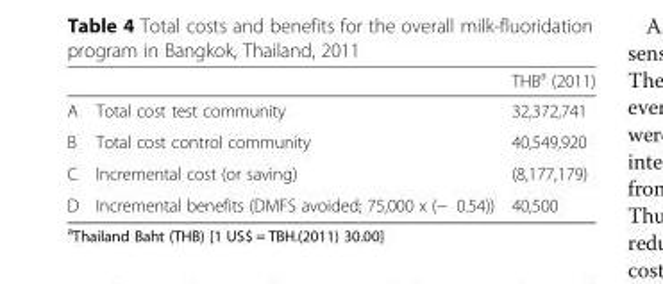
<table><thead><tr><td></td><td></td><td>THB<sup>a</sup> (2011)</td></tr></thead><tbody><tr><td>A</td><td>Total cost test community</td><td>32,372,741</td></tr><tr><td>B</td><td>Total cost control community</td><td>40,549,920</td></tr><tr><td>C</td><td>Incremental cost (or saving)</td><td>(8,177,179)</td></tr><tr><td>D</td><td>Incremental benefits (DMFS avoided; 75,000 x (− 0.54))</td><td>40,500</td></tr></tbody></table>